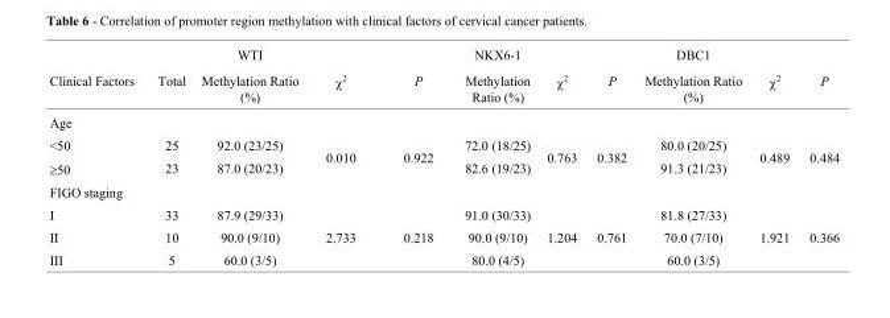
<table><thead><tr><td rowspan="2">Clinical Factors</td><td rowspan="2">Total</td><td rowspan="2">WTI Methylation Ratio (%)</td><td rowspan="2">χ<sup>2</sup></td><td rowspan="2">P</td><td rowspan="2">NKX6-1 Methylation Ratio (%)</td><td rowspan="2">χ<sup>2</sup></td><td rowspan="2">P</td><td rowspan="2">DBC1 Methylation Ratio (%)</td><td rowspan="2">χ<sup>2</sup></td><td rowspan="2">P</td></tr><tr></tr></thead><tbody><tr><td colspan="11">Age</td></tr><tr><td>&lt;50</td><td>25</td><td>92.0 (23/25)</td><td rowspan="2">0.010</td><td rowspan="2">0.922</td><td>72.0 (18/25)</td><td rowspan="2">0.763</td><td rowspan="2">0.382</td><td>80.0 (20/25)</td><td rowspan="2">0.489</td><td rowspan="2">0.484</td></tr><tr><td>≥50</td><td>23</td><td>87.0 (20/23)</td><td>82.6 (19/23)</td><td>91.3 (21/23)</td></tr><tr><td colspan="11">FIGO staging</td></tr><tr><td>I</td><td>33</td><td>87.9 (29/33)</td><td></td><td></td><td>91.0 (30/33)</td><td></td><td></td><td>81.8 (27/33)</td><td></td><td></td></tr><tr><td>II</td><td>10</td><td>90.0 (9/10)</td><td>2.733</td><td>0.218</td><td>90.0 (9/10)</td><td>1.204</td><td>0.761</td><td>70.0 (7/10)</td><td>1.921</td><td>0.366</td></tr><tr><td>III</td><td>5</td><td>60.0 (3/5)</td><td></td><td></td><td>80.0 (4/5)</td><td></td><td></td><td>60.0 (3/5)</td><td></td><td></td></tr></tbody></table>